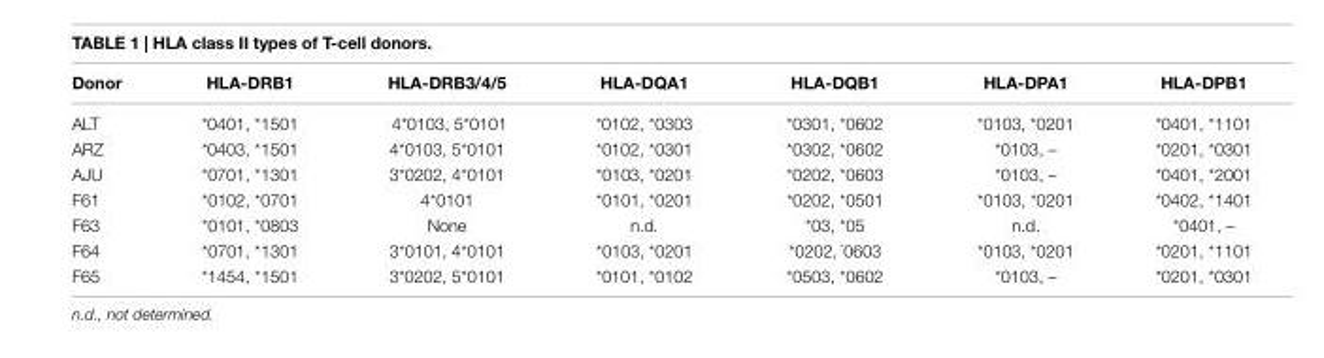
<table><thead><tr><td>Donor</td><td>hla-DrB1</td><td>hla-DrB3/4/5</td><td>hla-DQa1</td><td>hla-DQB1</td><td>hla-DPa1</td><td>hla-DPB1</td></tr></thead><tbody><tr><td>ALT</td><td>*0401, *1501</td><td>4*0103, 5*0101</td><td>*0102, *0303</td><td>*0301, *0602</td><td>*0103, *0201</td><td>*0401, *1101</td></tr><tr><td>ARZ</td><td>*0403, *1501</td><td>4*0103, 5*0101</td><td>*0102, *0301</td><td>*0302, *0602</td><td>*0103, –</td><td>*0201, *0301</td></tr><tr><td>AJU</td><td>*0701, *1301</td><td>3*0202, 4*0101</td><td>*0103, *0201</td><td>*0202, *0603</td><td>*0103, –</td><td>*0401, *2001</td></tr><tr><td>F61</td><td>*0102, *0701</td><td>4*0101</td><td>*0101, *0201</td><td>*0202, *0501</td><td>*0103, *0201</td><td>*0402, *1401</td></tr><tr><td>F63</td><td>*0101, *0803</td><td>None</td><td>n.d.</td><td>*03, *05</td><td>n.d.</td><td>*0401, –</td></tr><tr><td>F64</td><td>*0701, *1301</td><td>3*0101, 4*0101</td><td>*0103, *0201</td><td>*0202, *0603</td><td>*0103, *0201</td><td>*0201, *1101</td></tr><tr><td>F65</td><td>*1454, *1501</td><td>3*0202, 5*0101</td><td>*0101, *0102</td><td>*0503, *0602</td><td>*0103, –</td><td>*0201, *0301</td></tr></tbody></table>